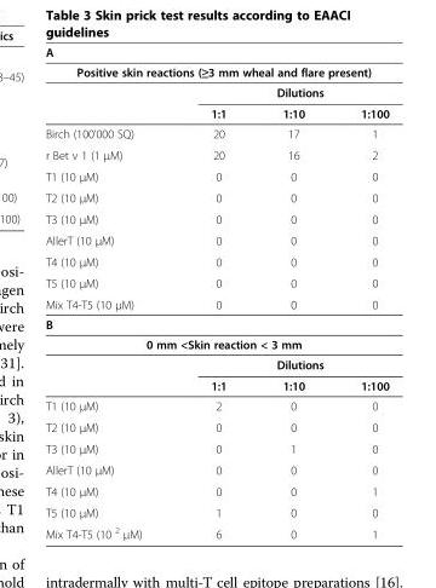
<table><tbody><tr><td colspan="4">A</td></tr><tr><td colspan="4">Positive skin reactions (≥3 mm wheal and flare present)</td></tr><tr><td></td><td colspan="3">Dilutions</td></tr><tr><td></td><td>1:1</td><td>1:10</td><td>1:100</td></tr><tr><td>Birch (100’000 SQ)</td><td>20</td><td>17</td><td>1</td></tr><tr><td>r Bet v 1 (1 μM)</td><td>20</td><td>16</td><td>2</td></tr><tr><td>T1 (10 μM)</td><td>0</td><td>0</td><td>0</td></tr><tr><td>T2 (10 μM)</td><td>0</td><td>0</td><td>0</td></tr><tr><td>T3 (10 μM)</td><td>0</td><td>0</td><td>0</td></tr><tr><td>AllerT (10 μM)</td><td>0</td><td>0</td><td>0</td></tr><tr><td>T4 (10 μM)</td><td>0</td><td>0</td><td>0</td></tr><tr><td>T5 (10 μM)</td><td>0</td><td>0</td><td>0</td></tr><tr><td>Mix T4-T5 (10 μM)</td><td>0</td><td>0</td><td>0</td></tr><tr><td colspan="4">B</td></tr><tr><td colspan="4">0 mm &lt;Skin reaction &lt; 3 mm</td></tr><tr><td></td><td colspan="3">Dilutions</td></tr><tr><td></td><td>1:1</td><td>1:10</td><td>1:100</td></tr><tr><td>T1 (10 μM)</td><td>2</td><td>0</td><td>0</td></tr><tr><td>T2 (10 μM)</td><td>0</td><td>0</td><td>0</td></tr><tr><td>T3 (10 μM)</td><td>0</td><td>1</td><td>0</td></tr><tr><td>AllerT (10 μM)</td><td>0</td><td>0</td><td>0</td></tr><tr><td>T4 (10 μM)</td><td>0</td><td>0</td><td>1</td></tr><tr><td>T5 (10 μM)</td><td>1</td><td>0</td><td>0</td></tr><tr><td>Mix T4-T5 (10 <sup>2</sup> μM)</td><td>6</td><td>0</td><td>1</td></tr></tbody></table>